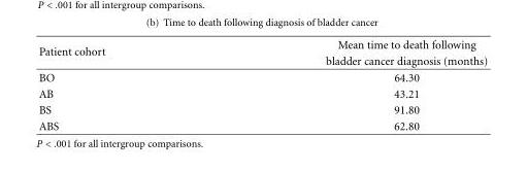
<table><thead><tr><td rowspan="2">Patient cohort</td><td rowspan="2">Mean time to death following bladder cancer diagnosis (months)</td></tr><tr></tr></thead><tbody><tr><td>BO</td><td>64.30</td></tr><tr><td>AB</td><td>43.21</td></tr><tr><td>BS</td><td>91.80</td></tr><tr><td>ABS</td><td>62.80</td></tr></tbody></table>